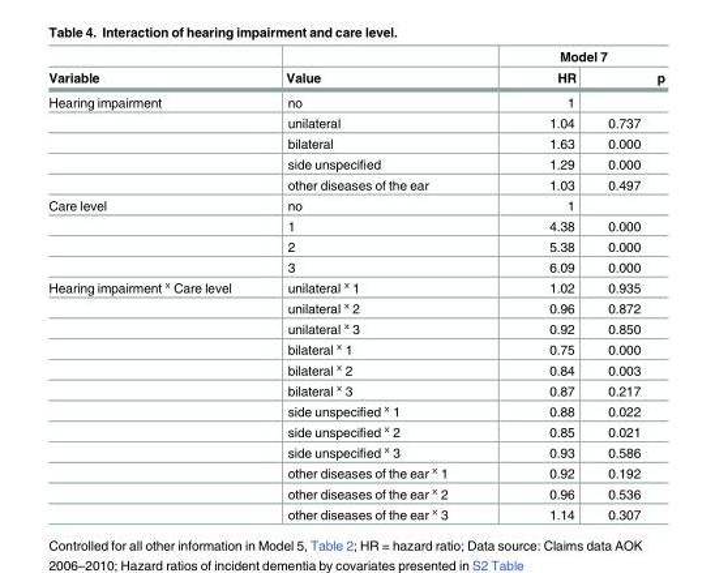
<table><thead><tr><td rowspan="2">Variable</td><td rowspan="2">Value</td><td colspan="2">Model 7</td></tr><tr><td>HR</td><td>p</td></tr></thead><tbody><tr><td rowspan="5">Hearing impairment</td><td>no</td><td>1</td><td></td></tr><tr><td>unilateral</td><td>1.04</td><td>0.737</td></tr><tr><td>bilateral</td><td>1.63</td><td>0.000</td></tr><tr><td>side unspecified</td><td>1.29</td><td>0.000</td></tr><tr><td>other diseases of the ear</td><td>1.03</td><td>0.497</td></tr><tr><td rowspan="4">Care level</td><td>no</td><td>1</td><td></td></tr><tr><td>1</td><td>4.38</td><td>0.000</td></tr><tr><td>2</td><td>5.38</td><td>0.000</td></tr><tr><td>3</td><td>6.09</td><td>0.000</td></tr><tr><td rowspan="12">Hearing impairment ˣ Care level</td><td>unilateral ˣ 1</td><td>1.02</td><td>0.935</td></tr><tr><td>unilateral ˣ 2</td><td>0.96</td><td>0.872</td></tr><tr><td>unilateral ˣ 3</td><td>0.92</td><td>0.850</td></tr><tr><td>bilateral ˣ 1</td><td>0.75</td><td>0.000</td></tr><tr><td>bilateral ˣ 2</td><td>0.84</td><td>0.003</td></tr><tr><td>bilateral ˣ 3</td><td>0.87</td><td>0.217</td></tr><tr><td>side unspecified ˣ 1</td><td>0.88</td><td>0.022</td></tr><tr><td>side unspecified ˣ 2</td><td>0.85</td><td>0.021</td></tr><tr><td>side unspecified ˣ 3</td><td>0.93</td><td>0.586</td></tr><tr><td>other diseases of the ear ˣ 1</td><td>0.92</td><td>0.192</td></tr><tr><td>other diseases of the ear ˣ 2</td><td>0.96</td><td>0.536</td></tr><tr><td>other diseases of the ear ˣ 3</td><td>1.14</td><td>0.307</td></tr></tbody></table>